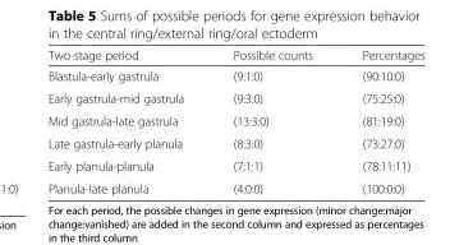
<table><thead><tr><td>Two-stage period</td><td>Possible counts</td><td>Percentages</td></tr></thead><tbody><tr><td>Blastula-early gastrula</td><td>(9:1:0)</td><td>(90:10:0)</td></tr><tr><td>Early gastrula-mid gastrula</td><td>(9:3:0)</td><td>(75:25:0)</td></tr><tr><td>Mid gastrula-late gastrula</td><td>(13:3:0)</td><td>(81:19:0)</td></tr><tr><td>Late gastrula-early planula</td><td>(8:3:0)</td><td>(73:27:0)</td></tr><tr><td>Early planula-planula</td><td>(7:1:1)</td><td>(78:11:11)</td></tr><tr><td>Planula-late planula</td><td>(4:0:0)</td><td>(100:0:0)</td></tr></tbody></table>